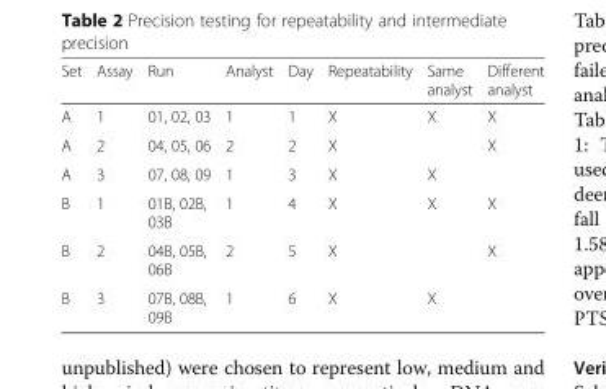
<table><thead><tr><td>Set</td><td>Assay</td><td>Run</td><td>Analyst</td><td>Day</td><td>Repeatability</td><td>Same analyst</td><td>Different analyst</td></tr></thead><tbody><tr><td>A</td><td>1</td><td>01, 02, 03</td><td>1</td><td>1</td><td>X</td><td>X</td><td>X</td></tr><tr><td>A</td><td>2</td><td>04, 05, 06</td><td>2</td><td>2</td><td>X</td><td></td><td>X</td></tr><tr><td>A</td><td>3</td><td>07, 08, 09</td><td>1</td><td>3</td><td>X</td><td>X</td><td></td></tr><tr><td>B</td><td>1</td><td>01B, 02B, 03B</td><td>1</td><td>4</td><td>X</td><td>X</td><td>X</td></tr><tr><td>B</td><td>2</td><td>04B, 05B, 06B</td><td>2</td><td>5</td><td>X</td><td></td><td>X</td></tr><tr><td>B</td><td>3</td><td>07B, 08B, 09B</td><td>1</td><td>6</td><td>X</td><td>X</td><td></td></tr></tbody></table>